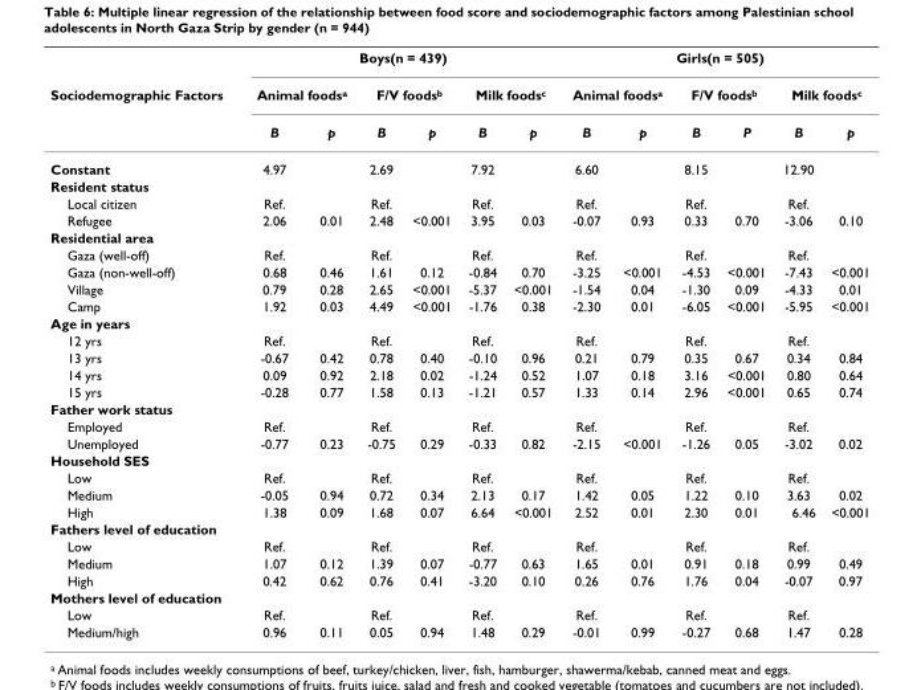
<table><thead><tr><td rowspan="3">Sociodemographic Factors</td><td colspan="6">Boys(n = 439)</td><td colspan="6">Girls(n = 505)</td></tr><tr><td colspan="2">Animal foods<sup>a</sup></td><td colspan="2">F/V foods<sup>b</sup></td><td colspan="2">Milk foods<sup>c</sup></td><td colspan="2">Animal foods<sup>a</sup></td><td colspan="2">F/V foods<sup>b</sup></td><td colspan="2">Milk foods<sup>c</sup></td></tr><tr><td>B</td><td>p</td><td>B</td><td>p</td><td>B</td><td>p</td><td>B</td><td>p</td><td>B</td><td>P</td><td>B</td><td>p</td></tr></thead><tbody><tr><td>Constant</td><td>4.97</td><td></td><td>2.69</td><td></td><td>7.92</td><td></td><td>6.60</td><td></td><td>8.15</td><td></td><td>12.90</td><td></td></tr><tr><td colspan="13">Resident status</td></tr><tr><td>Local citizen</td><td>Ref.</td><td></td><td>Ref.</td><td></td><td>Ref.</td><td></td><td>Ref.</td><td></td><td>Ref.</td><td></td><td>Ref.</td><td></td></tr><tr><td>Refugee</td><td>2.06</td><td>0.01</td><td>2.48</td><td>&lt;0.001</td><td>3.95</td><td>0.03</td><td>-0.07</td><td>0.93</td><td>0.33</td><td>0.70</td><td>-3.06</td><td>0.10</td></tr><tr><td colspan="13">Residential area</td></tr><tr><td>Gaza (well-off)</td><td>Ref.</td><td></td><td>Ref.</td><td></td><td>Ref.</td><td></td><td>Ref.</td><td></td><td>Ref.</td><td></td><td>Ref.</td><td></td></tr><tr><td>Gaza (non-well-off)</td><td>0.68</td><td>0.46</td><td>1.61</td><td>0.12</td><td>-0.84</td><td>0.70</td><td>-3.25</td><td>&lt;0.001</td><td>-4.53</td><td>&lt;0.001</td><td>-7.43</td><td>&lt;0.001</td></tr><tr><td>Village</td><td>0.79</td><td>0.28</td><td>2.65</td><td>&lt;0.001</td><td>-5.37</td><td>&lt;0.001</td><td>-1.54</td><td>0.04</td><td>-1.30</td><td>0.09</td><td>-4.33</td><td>0.01</td></tr><tr><td>Camp</td><td>1.92</td><td>0.03</td><td>4.49</td><td>&lt;0.001</td><td>-1.76</td><td>0.38</td><td>-2.30</td><td>0.01</td><td>-6.05</td><td>&lt;0.001</td><td>-5.95</td><td>&lt;0.001</td></tr><tr><td colspan="13">Age in years</td></tr><tr><td>12 yrs</td><td>Ref.</td><td></td><td>Ref.</td><td></td><td>Ref.</td><td></td><td>Ref.</td><td></td><td>Ref.</td><td></td><td>Ref.</td><td></td></tr><tr><td>13 yrs</td><td>-0.67</td><td>0.42</td><td>0.78</td><td>0.40</td><td>-0.10</td><td>0.96</td><td>0.21</td><td>0.79</td><td>0.35</td><td>0.67</td><td>0.34</td><td>0.84</td></tr><tr><td>14 yrs</td><td>0.09</td><td>0.92</td><td>2.18</td><td>0.02</td><td>-1.24</td><td>0.52</td><td>1.07</td><td>0.18</td><td>3.16</td><td>&lt;0.001</td><td>0.80</td><td>0.64</td></tr><tr><td>15 yrs</td><td>-0.28</td><td>0.77</td><td>1.58</td><td>0.13</td><td>-1.21</td><td>0.57</td><td>1.33</td><td>0.14</td><td>2.96</td><td>&lt;0.001</td><td>0.65</td><td>0.74</td></tr><tr><td colspan="13">Father work status</td></tr><tr><td>Employed</td><td>Ref.</td><td></td><td>Ref.</td><td></td><td>Ref.</td><td></td><td>Ref.</td><td></td><td>Ref.</td><td></td><td>Ref.</td><td></td></tr><tr><td>Unemployed</td><td>-0.77</td><td>0.23</td><td>-0.75</td><td>0.29</td><td>-0.33</td><td>0.82</td><td>-2.15</td><td>&lt;0.001</td><td>-1.26</td><td>0.05</td><td>-3.02</td><td>0.02</td></tr><tr><td colspan="13">Household SES</td></tr><tr><td>Low</td><td>Ref.</td><td></td><td>Ref.</td><td></td><td>Ref.</td><td></td><td>Ref.</td><td></td><td>Ref.</td><td></td><td>Ref.</td><td></td></tr><tr><td>Medium</td><td>-0.05</td><td>0.94</td><td>0.72</td><td>0.34</td><td>2.13</td><td>0.17</td><td>1.42</td><td>0.05</td><td>1.22</td><td>0.10</td><td>3.63</td><td>0.02</td></tr><tr><td>High</td><td>1.38</td><td>0.09</td><td>1.68</td><td>0.07</td><td>6.64</td><td>&lt;0.001</td><td>2.52</td><td>0.01</td><td>2.30</td><td>0.01</td><td>6.46</td><td>&lt;0.001</td></tr><tr><td colspan="13">Fathers level of education</td></tr><tr><td>Low</td><td>Ref.</td><td></td><td>Ref.</td><td></td><td>Ref.</td><td></td><td>Ref.</td><td></td><td>Ref.</td><td></td><td>Ref.</td><td></td></tr><tr><td>Medium</td><td>1.07</td><td>0.12</td><td>1.39</td><td>0.07</td><td>-0.77</td><td>0.63</td><td>1.65</td><td>0.01</td><td>0.91</td><td>0.18</td><td>0.99</td><td>0.49</td></tr><tr><td>High</td><td>0.42</td><td>0.62</td><td>0.76</td><td>0.41</td><td>-3.20</td><td>0.10</td><td>0.26</td><td>0.76</td><td>1.76</td><td>0.04</td><td>-0.07</td><td>0.97</td></tr><tr><td colspan="13">Mothers level of education</td></tr><tr><td>Low</td><td>Ref.</td><td></td><td>Ref.</td><td></td><td>Ref.</td><td></td><td>Ref.</td><td></td><td>Ref.</td><td></td><td>Ref.</td><td></td></tr><tr><td>Medium/high</td><td>0.96</td><td>0.11</td><td>0.05</td><td>0.94</td><td>1.48</td><td>0.29</td><td>-0.01</td><td>0.99</td><td>-0.27</td><td>0.68</td><td>1.47</td><td>0.28</td></tr></tbody></table>